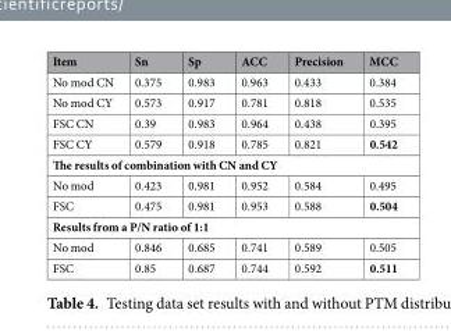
<table><thead><tr><td>Item</td><td>Sn</td><td>Sp</td><td>ACC</td><td>Precision</td><td>MCC</td></tr></thead><tbody><tr><td>No mod CN</td><td>0.375</td><td>0.983</td><td>0.963</td><td>0.433</td><td>0.384</td></tr><tr><td>No mod CY</td><td>0.573</td><td>0.917</td><td>0.781</td><td>0.818</td><td>0.535</td></tr><tr><td>FSC CN</td><td>0.39</td><td>0.983</td><td>0.964</td><td>0.438</td><td>0.395</td></tr><tr><td>FSC CY</td><td>0.579</td><td>0.918</td><td>0.785</td><td>0.821</td><td>0.542</td></tr><tr><td colspan="6">The results of combination with CN and CY</td></tr><tr><td>No mod</td><td>0.423</td><td>0.981</td><td>0.952</td><td>0.584</td><td>0.495</td></tr><tr><td>FSC</td><td>0.475</td><td>0.981</td><td>0.953</td><td>0.588</td><td>0.504</td></tr><tr><td colspan="6">Results from a P/N ratio of 1:1</td></tr><tr><td>No mod</td><td>0.846</td><td>0.685</td><td>0.741</td><td>0.589</td><td>0.505</td></tr><tr><td>FSC</td><td>0.85</td><td>0.687</td><td>0.744</td><td>0.592</td><td>0.511</td></tr></tbody></table>